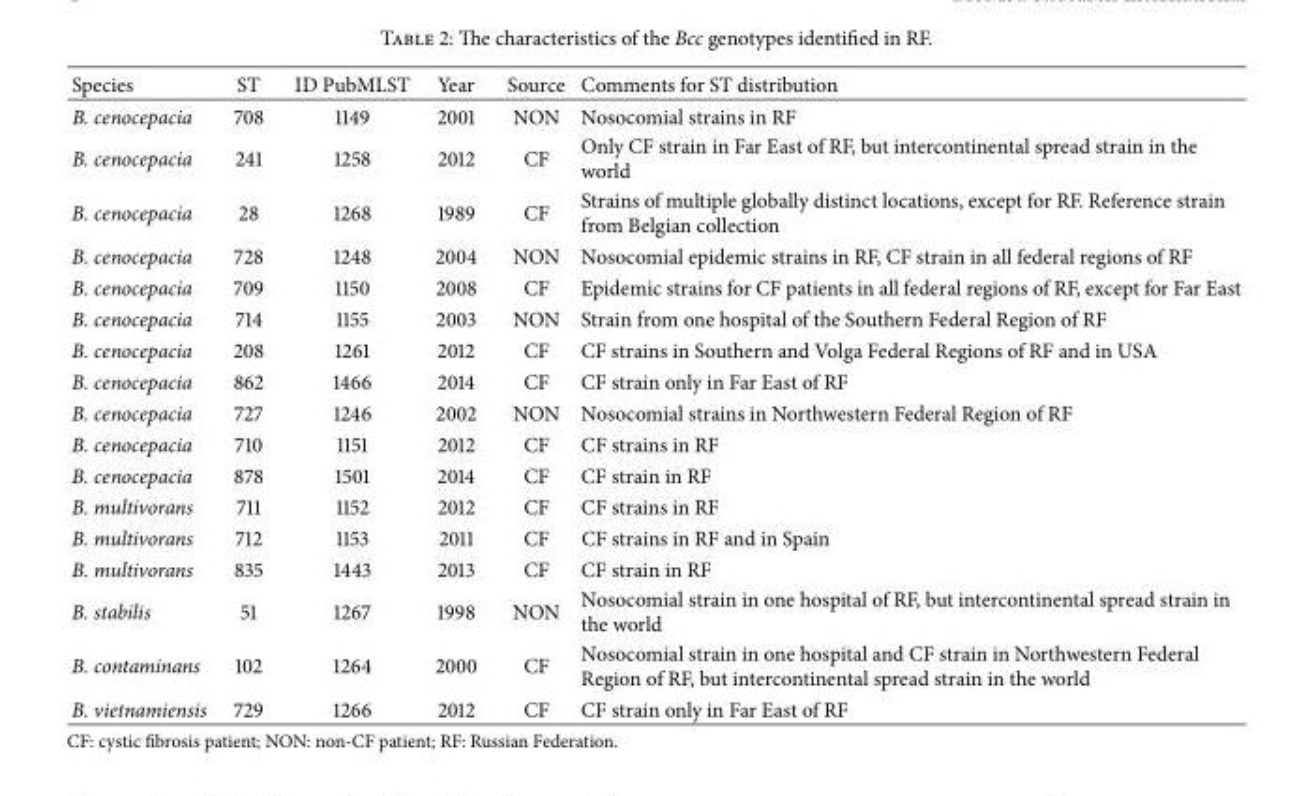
<table><thead><tr><td>Species</td><td>ST</td><td>ID PubMLST</td><td>Year</td><td>Source</td><td>Comments for ST distribution</td></tr></thead><tbody><tr><td>B. cenocepacia</td><td>708</td><td>1149</td><td>2001</td><td>NON</td><td>Nosocomial strains in RF</td></tr><tr><td>B. cenocepacia</td><td>241</td><td>1258</td><td>2012</td><td>CF</td><td>Only CF strain in Far East of RF, but intercontinental spread strain in the world</td></tr><tr><td>B. cenocepacia</td><td>28</td><td>1268</td><td>1989</td><td>CF</td><td>Strains of multiple globally distinct locations, except for RF. Reference strain from Belgian collection</td></tr><tr><td>B. cenocepacia</td><td>728</td><td>1248</td><td>2004</td><td>NON</td><td>Nosocomial epidemic strains in RF, CF strain in all federal regions of RF</td></tr><tr><td>B. cenocepacia</td><td>709</td><td>1150</td><td>2008</td><td>CF</td><td>Epidemic strains for CF patients in all federal regions of RF, except for Far East</td></tr><tr><td>B. cenocepacia</td><td>714</td><td>1155</td><td>2003</td><td>NON</td><td>Strain from one hospital of the Southern Federal Region of RF</td></tr><tr><td>B. cenocepacia</td><td>208</td><td>1261</td><td>2012</td><td>CF</td><td>CF strains in Southern and Volga Federal Regions of RF and in USA</td></tr><tr><td>B. cenocepacia</td><td>862</td><td>1466</td><td>2014</td><td>CF</td><td>CF strain only in Far East of RF</td></tr><tr><td>B. cenocepacia</td><td>727</td><td>1246</td><td>2002</td><td>NON</td><td>Nosocomial strains in Northwestern Federal Region of RF</td></tr><tr><td>B. cenocepacia</td><td>710</td><td>1151</td><td>2012</td><td>CF</td><td>CF strains in RF</td></tr><tr><td>B. cenocepacia</td><td>878</td><td>1501</td><td>2014</td><td>CF</td><td>CF strain in RF</td></tr><tr><td>B. multivorans</td><td>711</td><td>1152</td><td>2012</td><td>CF</td><td>CF strains in RF</td></tr><tr><td>B. multivorans</td><td>712</td><td>1153</td><td>2011</td><td>CF</td><td>CF strains in RF and in Spain</td></tr><tr><td>B. multivorans</td><td>835</td><td>1443</td><td>2013</td><td>CF</td><td>CF strain in RF</td></tr><tr><td>B. stabilis</td><td>51</td><td>1267</td><td>1998</td><td>NON</td><td>Nosocomial strain in one hospital of RF, but intercontinental spread strain in the world</td></tr><tr><td>B. contaminans</td><td>102</td><td>1264</td><td>2000</td><td>CF</td><td>Nosocomial strain in one hospital and CF strain in Northwestern Federal Region of RF, but intercontinental spread strain in the world</td></tr><tr><td>B. vietnamiensis</td><td>729</td><td>1266</td><td>2012</td><td>CF</td><td>CF strain only in Far East of RF</td></tr></tbody></table>